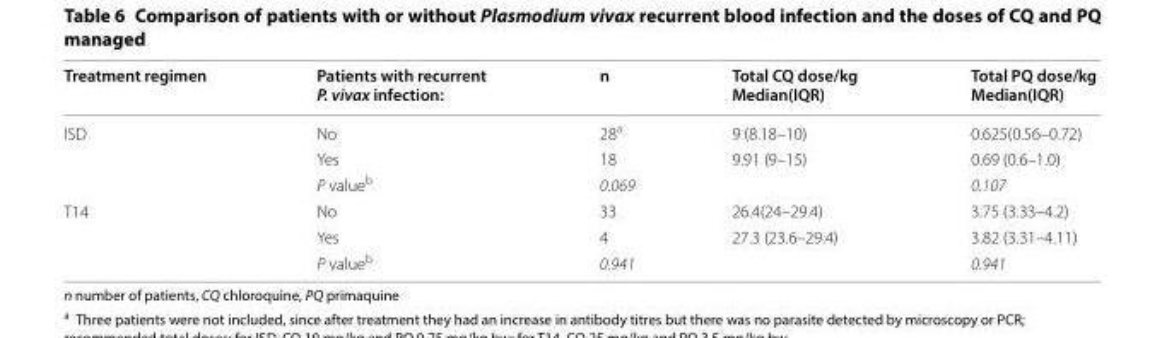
<table><thead><tr><td>Treatment regimen</td><td>Patients with recurrent P. vivax infection:</td><td>n</td><td>Total CQ dose/kg Median(IQR)</td><td>Total PQ dose/kg Median(IQR)</td></tr></thead><tbody><tr><td rowspan="3">ISD</td><td>No</td><td>28<sup>a</sup></td><td>9 (8.18–10)</td><td>0.625(0.56–0.72)</td></tr><tr><td>Yes</td><td>18</td><td>9.91 (9–15)</td><td>0.69 (0.6–1.0)</td></tr><tr><td>P value<sup>b</sup></td><td colspan="2">0.069</td><td>0.107</td></tr><tr><td rowspan="3">T14</td><td>No</td><td>33</td><td>26.4(24–29.4)</td><td>3.75 (3.33–4.2)</td></tr><tr><td>Yes</td><td>4</td><td>27.3 (23.6–29.4)</td><td>3.82 (3.31–4.11)</td></tr><tr><td>P value<sup>b</sup></td><td colspan="2">0.941</td><td>0.941</td></tr></tbody></table>